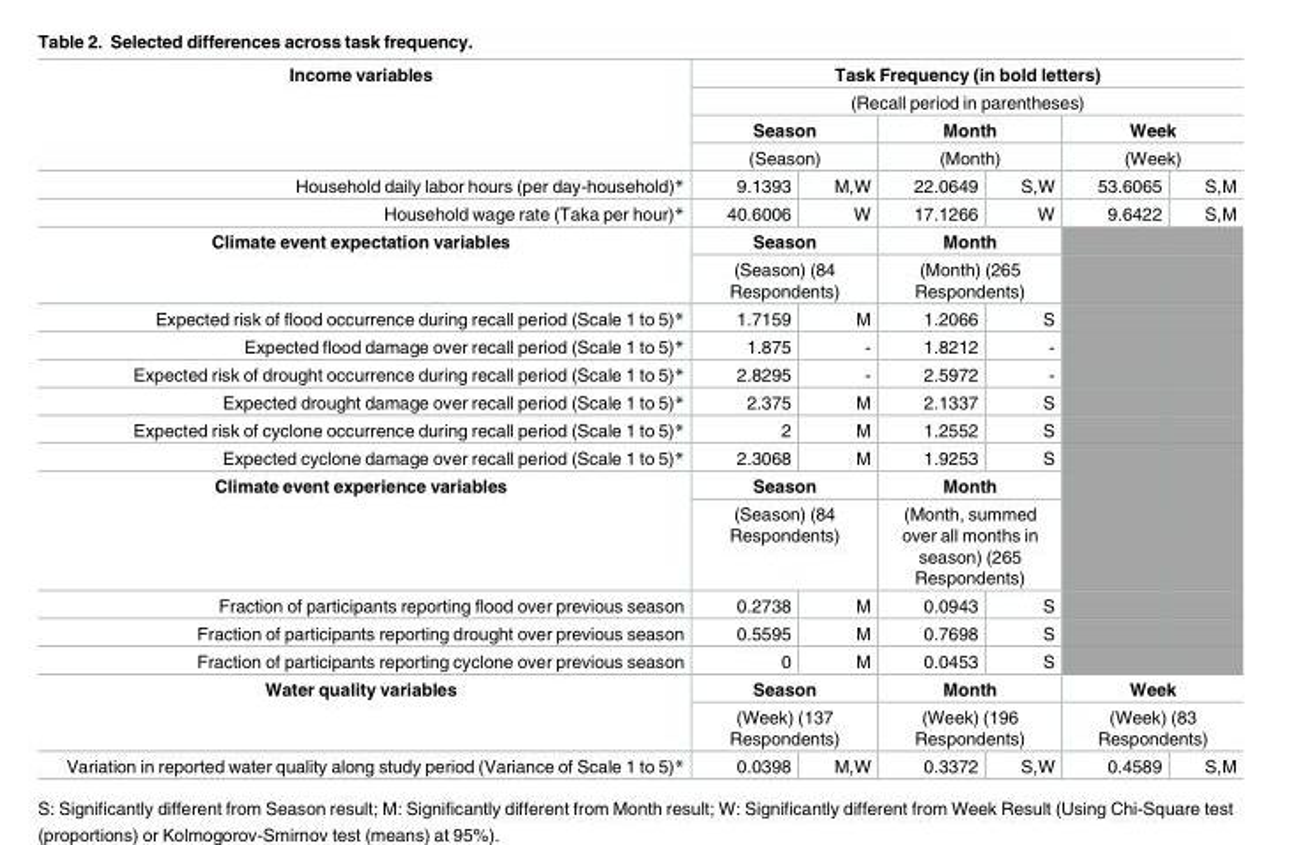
<table><tbody><tr><td rowspan="4">Income variables</td><td colspan="6">Task Frequency (in bold letters)</td></tr><tr><td colspan="6">(Recall period in parentheses)</td></tr><tr><td colspan="2">Season</td><td colspan="2">Month</td><td colspan="2">Week</td></tr><tr><td colspan="2">(Season)</td><td colspan="2">(Month)</td><td colspan="2">(Week)</td></tr><tr><td>Household daily labor hours (per day-household)*</td><td>9.1393</td><td>M,W</td><td>22.0649</td><td>S,W</td><td>53.6065</td><td>S,M</td></tr><tr><td>Household wage rate (Taka per hour)*</td><td>40.6006</td><td>W</td><td>17.1266</td><td>W</td><td>9.6422</td><td>S,M</td></tr><tr><td rowspan="2">Climate event expectation variables</td><td colspan="2">Season</td><td colspan="2">Month</td><td colspan="2"></td></tr><tr><td colspan="2">(Season) (84 Respondents)</td><td colspan="2">(Month) (265 Respondents)</td><td></td><td></td></tr><tr><td>Expected risk of flood occurrence during recall period (Scale 1 to 5)*</td><td>1.7159</td><td>M</td><td>1.2066</td><td>S</td><td></td><td></td></tr><tr><td>Expected flood damage over recall period (Scale 1 to 5)*</td><td>1.875</td><td>-</td><td>1.8212</td><td>-</td><td></td><td></td></tr><tr><td>Expected risk of drought occurrence during recall period (Scale 1 to 5)*</td><td>2.8295</td><td>-</td><td>2.5972</td><td>-</td><td></td><td></td></tr><tr><td>Expected drought damage over recall period (Scale 1 to 5)*</td><td>2.375</td><td>M</td><td>2.1337</td><td>S</td><td></td><td></td></tr><tr><td>Expected risk of cyclone occurrence during recall period (Scale 1 to 5)*</td><td>2</td><td>M</td><td>1.2552</td><td>S</td><td></td><td></td></tr><tr><td>Expected cyclone damage over recall period (Scale 1 to 5)*</td><td>2.3068</td><td>M</td><td>1.9253</td><td>S</td><td></td><td></td></tr><tr><td rowspan="2">Climate event experience variables</td><td colspan="2">Season</td><td colspan="2">Month</td><td></td><td></td></tr><tr><td colspan="2">(Season) (84 Respondents)</td><td colspan="2">(Month, summed over all months in season) (265 Respondents)</td><td></td><td></td></tr><tr><td>Fraction of participants reporting flood over previous season</td><td>0.2738</td><td>M</td><td>0.0943</td><td>S</td><td></td><td></td></tr><tr><td>Fraction of participants reporting drought over previous season</td><td>0.5595</td><td>M</td><td>0.7698</td><td>S</td><td></td><td></td></tr><tr><td>Fraction of participants reporting cyclone over previous season</td><td>0</td><td>M</td><td>0.0453</td><td>S</td><td></td><td></td></tr><tr><td rowspan="2">Water quality variables</td><td colspan="2">Season</td><td colspan="2">Month</td><td colspan="2">Week</td></tr><tr><td colspan="2">(Week) (137 Respondents)</td><td colspan="2">(Week) (196 Respondents)</td><td colspan="2">(Week) (83 Respondents)</td></tr><tr><td>Variation in reported water quality along study period (Variance of Scale 1 to 5)*</td><td>0.0398</td><td>M,W</td><td>0.3372</td><td>S,W</td><td>0.4589</td><td>S,M</td></tr></tbody></table>